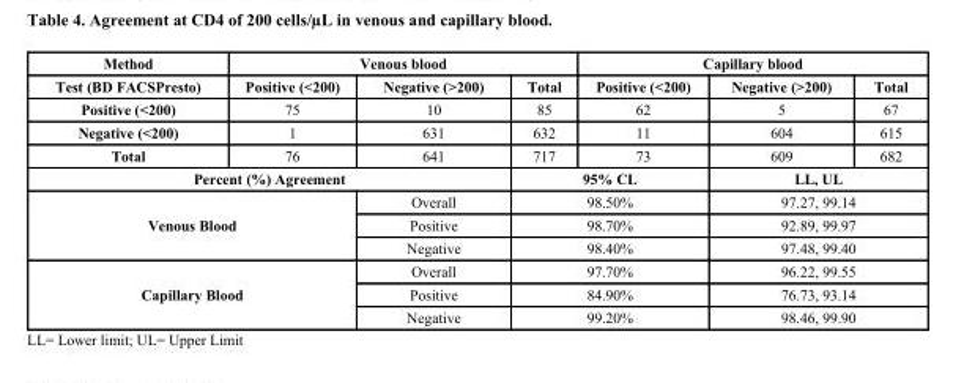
<table><thead><tr><td rowspan="2">Method Test (BD FACSPresto)</td><td colspan="3">Venous blood</td><td colspan="3">Capillary blood</td></tr><tr><td>Positive (&lt;200)</td><td>Negative (&gt;200)</td><td>Total</td><td>Positive (&lt;200)</td><td>Negative (&gt;200)</td><td>Total</td></tr></thead><tbody><tr><td>Positive (&lt;200)</td><td>75</td><td>10</td><td>85</td><td>62</td><td>5</td><td>67</td></tr><tr><td>Negative (&lt;200)</td><td>1</td><td>631</td><td>632</td><td>11</td><td>604</td><td>615</td></tr><tr><td>Total</td><td>76</td><td>641</td><td>717</td><td>73</td><td>609</td><td>682</td></tr><tr><td colspan="3">Percent (%) Agreement</td><td colspan="2">95% CL</td><td colspan="2">LL, UL</td></tr><tr><td rowspan="3" colspan="2">Venous Blood</td><td>Overall</td><td colspan="2">98.50%</td><td colspan="2">97.27, 99.14</td></tr><tr><td>Positive</td><td colspan="2">98.70%</td><td colspan="2">92.89, 99.97</td></tr><tr><td>Negative</td><td colspan="2">98.40%</td><td colspan="2">97.48, 99.40</td></tr><tr><td rowspan="3" colspan="2">Capillary Blood</td><td>Overall</td><td colspan="2">97.70%</td><td colspan="2">96.22, 99.55</td></tr><tr><td>Positive</td><td colspan="2">84.90%</td><td colspan="2">76.73, 93.14</td></tr><tr><td>Negative</td><td colspan="2">99.20%</td><td colspan="2">98.46, 99.90</td></tr></tbody></table>